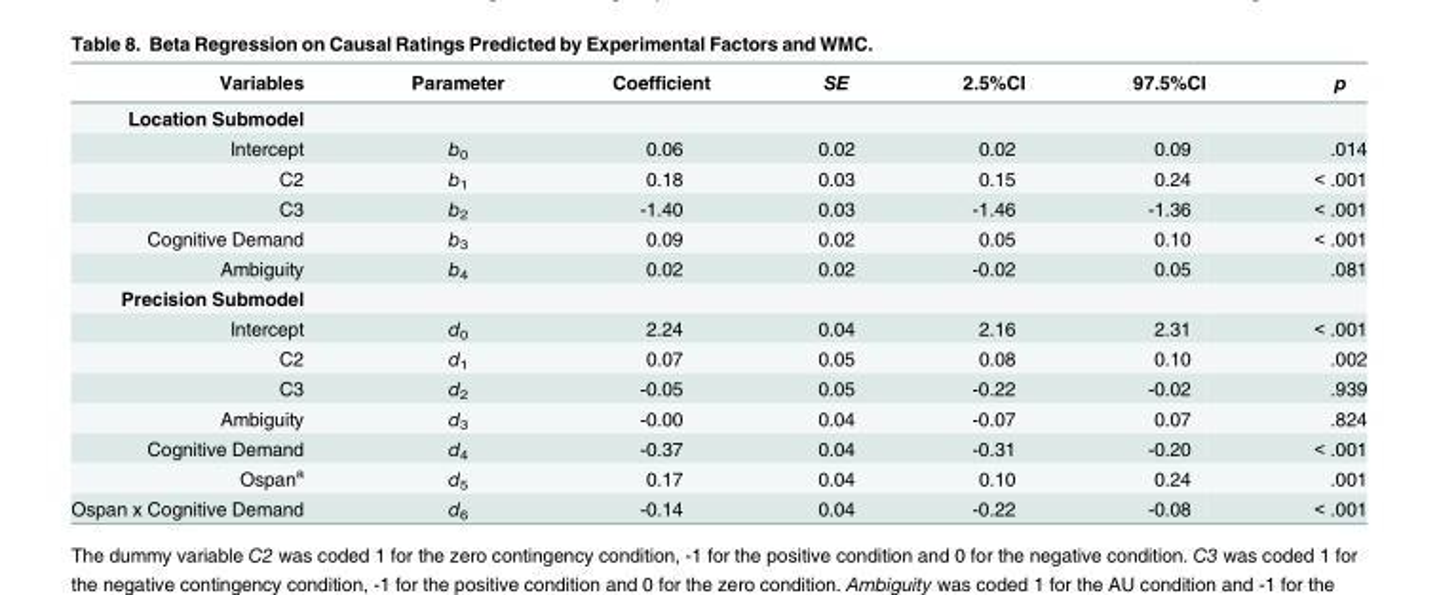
<table><thead><tr><td>Variables</td><td>Parameter</td><td>Coefficient</td><td>SE</td><td>2.5%CI</td><td>97.5%CI</td><td>p</td></tr></thead><tbody><tr><td colspan="7">Location Submodel</td></tr><tr><td>Intercept</td><td>b<sub>0</sub></td><td>0.06</td><td>0.02</td><td>0.02</td><td>0.09</td><td>.014</td></tr><tr><td>C2</td><td>b<sub>1</sub></td><td>0.18</td><td>0.03</td><td>0.15</td><td>0.24</td><td>&lt; .001</td></tr><tr><td>C3</td><td>b<sub>2</sub></td><td>-1.40</td><td>0.03</td><td>-1.46</td><td>-1.36</td><td>&lt; .001</td></tr><tr><td>Cognitive Demand</td><td>b<sub>3</sub></td><td>0.09</td><td>0.02</td><td>0.05</td><td>0.10</td><td>&lt; .001</td></tr><tr><td>Ambiguity</td><td>b<sub>4</sub></td><td>0.02</td><td>0.02</td><td>-0.02</td><td>0.05</td><td>.081</td></tr><tr><td colspan="7">Precision Submodel</td></tr><tr><td>Intercept</td><td>d<sub>0</sub></td><td>2.24</td><td>0.04</td><td>2.16</td><td>2.31</td><td>&lt; .001</td></tr><tr><td>C2</td><td>d<sub>1</sub></td><td>0.07</td><td>0.05</td><td>0.08</td><td>0.10</td><td>.002</td></tr><tr><td>C3</td><td>d<sub>2</sub></td><td>-0.05</td><td>0.05</td><td>-0.22</td><td>-0.02</td><td>.939</td></tr><tr><td>Ambiguity</td><td>d<sub>3</sub></td><td>-0.00</td><td>0.04</td><td>-0.07</td><td>0.07</td><td>.824</td></tr><tr><td>Cognitive Demand</td><td>d<sub>4</sub></td><td>-0.37</td><td>0.04</td><td>-0.31</td><td>-0.20</td><td>&lt; .001</td></tr><tr><td>Ospan<sup>a</sup></td><td>d<sub>5</sub></td><td>0.17</td><td>0.04</td><td>0.10</td><td>0.24</td><td>.001</td></tr><tr><td>Ospan x Cognitive Demand</td><td>d<sub>6</sub></td><td>-0.14</td><td>0.04</td><td>-0.22</td><td>-0.08</td><td>&lt; .001</td></tr></tbody></table>